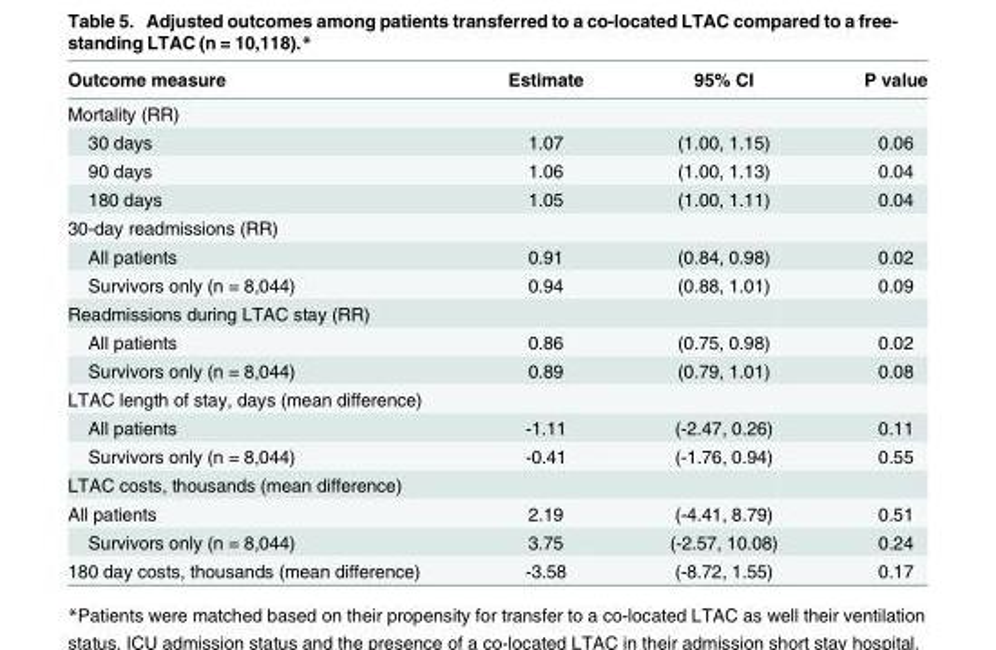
<table><thead><tr><td>Outcome measure</td><td>Estimate</td><td>95% CI</td><td>P value</td></tr></thead><tbody><tr><td colspan="4">Mortality (RR)</td></tr><tr><td>30 days</td><td>1.07</td><td>(1.00, 1.15)</td><td>0.06</td></tr><tr><td>90 days</td><td>1.06</td><td>(1.00, 1.13)</td><td>0.04</td></tr><tr><td>180 days</td><td>1.05</td><td>(1.00, 1.11)</td><td>0.04</td></tr><tr><td colspan="4">30-day readmissions (RR)</td></tr><tr><td>All patients</td><td>0.91</td><td>(0.84, 0.98)</td><td>0.02</td></tr><tr><td>Survivors only (n = 8,044)</td><td>0.94</td><td>(0.88, 1.01)</td><td>0.09</td></tr><tr><td colspan="4">Readmissions during LTAC stay (RR)</td></tr><tr><td>All patients</td><td>0.86</td><td>(0.75, 0.98)</td><td>0.02</td></tr><tr><td>Survivors only (n = 8,044)</td><td>0.89</td><td>(0.79, 1.01)</td><td>0.08</td></tr><tr><td colspan="4">LTAC length of stay, days (mean difference)</td></tr><tr><td>All patients</td><td>-1.11</td><td>(-2.47, 0.26)</td><td>0.11</td></tr><tr><td>Survivors only (n = 8,044)</td><td>-0.41</td><td>(-1.76, 0.94)</td><td>0.55</td></tr><tr><td colspan="4">LTAC costs, thousands (mean difference)</td></tr><tr><td>All patients</td><td>2.19</td><td>(-4.41, 8.79)</td><td>0.51</td></tr><tr><td>Survivors only (n = 8,044)</td><td>3.75</td><td>(-2.57, 10.08)</td><td>0.24</td></tr><tr><td>180 day costs, thousands (mean difference)</td><td>-3.58</td><td>(-8.72, 1.55)</td><td>0.17</td></tr></tbody></table>